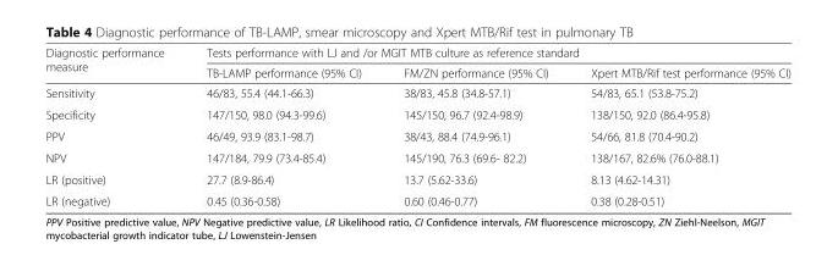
<table><thead><tr><td rowspan="2">Diagnostic performance measure</td><td colspan="3">Tests performance with LJ and /or MGIT MTB culture as reference standard</td></tr><tr><td>TB-LAMP performance (95% CI)</td><td>FM/ZN performance (95% CI)</td><td>Xpert MTB/Rif test performance (95% CI)</td></tr></thead><tbody><tr><td>Sensitivity</td><td>46/83, 55.4 (44.1-66.3)</td><td>38/83, 45.8 (34.8-57.1)</td><td>54/83, 65.1 (53.8-75.2)</td></tr><tr><td>Specificity</td><td>147/150, 98.0 (94.3-99.6)</td><td>145/150, 96.7 (92.4-98.9)</td><td>138/150, 92.0 (86.4-95.8)</td></tr><tr><td>PPV</td><td>46/49, 93.9 (83.1-98.7)</td><td>38/43, 88.4 (74.9-96.1)</td><td>54/66, 81.8 (70.4-90.2)</td></tr><tr><td>NPV</td><td>147/184, 79.9 (73.4-85.4)</td><td>145/190, 76.3 (69.6- 82.2)</td><td>138/167, 82.6% (76.0-88.1)</td></tr><tr><td>LR (positive)</td><td>27.7 (8.9-86.4)</td><td>13.7 (5.62-33.6)</td><td>8.13 (4.62-14.31)</td></tr><tr><td>LR (negative)</td><td>0.45 (0.36-0.58)</td><td>0.60 (0.46-0.77)</td><td>0.38 (0.28-0.51)</td></tr></tbody></table>